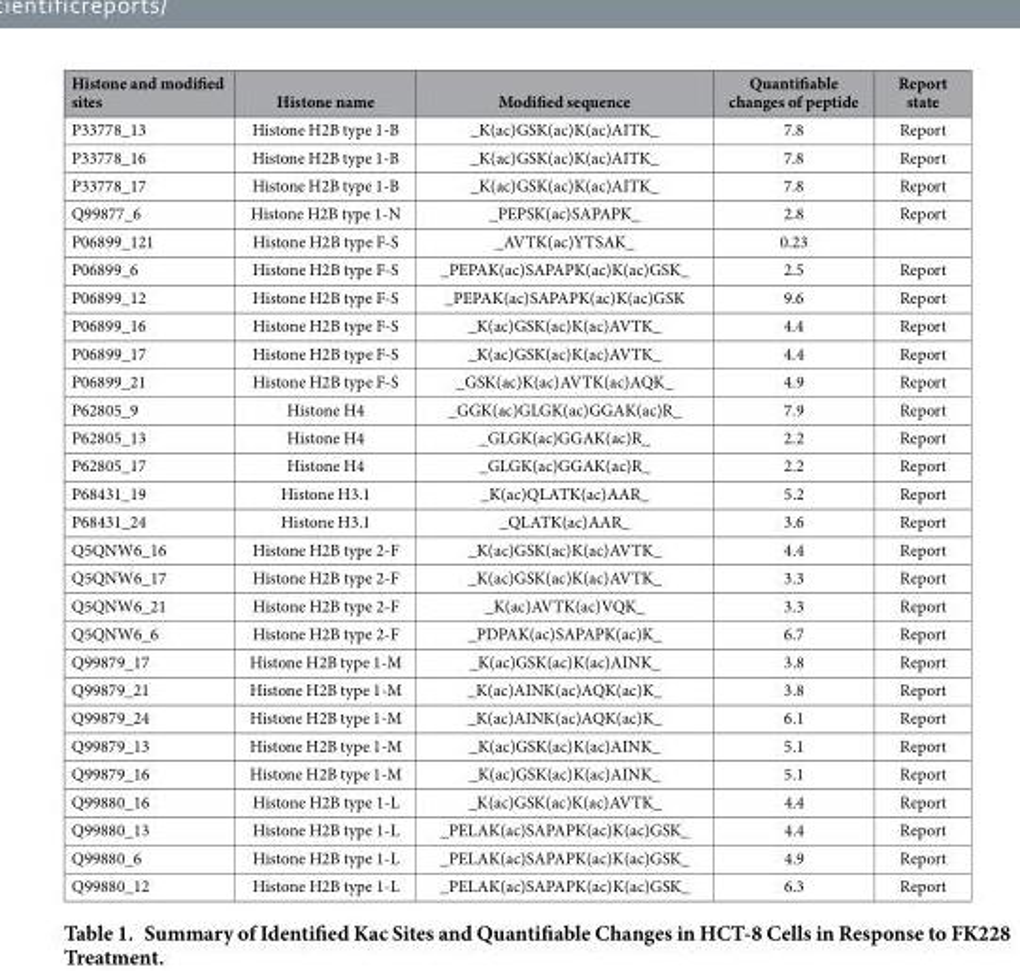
<table><thead><tr><td>Histone and modified sites</td><td>Histone name</td><td>Modified sequence</td><td>Quantifiable changes of peptide</td><td>Report state</td></tr></thead><tbody><tr><td>P33778_13</td><td>Histone H2B type 1-B</td><td>_K(ac)GSK(ac)K(ac)AITK_</td><td>7.8</td><td>Report</td></tr><tr><td>P33778_16</td><td>Histone H2B type 1-B</td><td>_K(ac)GSK(ac)K(ac)AITK_</td><td>7.8</td><td>Report</td></tr><tr><td>P33778_17</td><td>Histone H2B type 1-B</td><td>_K(ac)GSK(ac)K(ac)AITK_</td><td>7.8</td><td>Report</td></tr><tr><td>Q99877_6</td><td>Histone H2B type 1-N</td><td>_PEPSK(ac)SAPAPK_</td><td>2.8</td><td>Report</td></tr><tr><td>P06899_121</td><td>Histone H2B type F-S</td><td>_AVTK(ac)YTSAK_</td><td>0.23</td><td></td></tr><tr><td>P06899_6</td><td>Histone H2B type F-S</td><td>_PEPAK(ac)SAPAPK(ac)K(ac)GSK_</td><td>2.5</td><td>Report</td></tr><tr><td>P06899_12</td><td>Histone H2B type F-S</td><td>_PEPAK(ac)SAPAPK(ac)K(ac)GSK</td><td>9.6</td><td>Report</td></tr><tr><td>P06899_16</td><td>Histone H2B type F-S</td><td>_K(ac)GSK(ac)K(ac)AVTK_</td><td>4.4</td><td>Report</td></tr><tr><td>P06899_17</td><td>Histone H2B type F-S</td><td>_K(ac)GSK(ac)K(ac)AVTK_</td><td>4.4</td><td>Report</td></tr><tr><td>P06899_21</td><td>Histone H2B type F-S</td><td>_GSK(ac)K(ac)AVTK(ac)AQK_</td><td>4.9</td><td>Report</td></tr><tr><td>P62805_9</td><td>Histone H4</td><td>_GGK(ac)GLGK(ac)GGAK(ac)R_</td><td>7.9</td><td>Report</td></tr><tr><td>P62805_13</td><td>Histone H4</td><td>_GLGK(ac)GGAK(ac)R_</td><td>2.2</td><td>Report</td></tr><tr><td>P62805_17</td><td>Histone H4</td><td>_GLGK(ac)GGAK(ac)R_</td><td>2.2</td><td>Report</td></tr><tr><td>P68431_19</td><td>Histone H3.1</td><td>_K(ac)QLATK(ac)AAR_</td><td>5.2</td><td>Report</td></tr><tr><td>P68431_24</td><td>Histone H3.1</td><td>_QLATK(ac)AAR_</td><td>3.6</td><td>Report</td></tr><tr><td>Q5QNW6_16</td><td>Histone H2B type 2-F</td><td>_K(ac)GSK(ac)K(ac)AVTK_</td><td>4.4</td><td>Report</td></tr><tr><td>Q5QNW6_17</td><td>Histone H2B type 2-F</td><td>_K(ac)GSK(ac)K(ac)AVTK_</td><td>3.3</td><td>Report</td></tr><tr><td>Q5QNW6_21</td><td>Histone H2B type 2-F</td><td>_K(ac)AVTK(ac)VQK_</td><td>3.3</td><td>Report</td></tr><tr><td>Q5QNW6_6</td><td>Histone H2B type 2-F</td><td>_PDPAK(ac)SAPAPK(ac)K_</td><td>6.7</td><td>Report</td></tr><tr><td>Q99879_17</td><td>Histone H2B type 1-M</td><td>_K(ac)GSK(ac)K(ac)AINK_</td><td>3.8</td><td>Report</td></tr><tr><td>Q99879_21</td><td>Histone H2B type 1-M</td><td>_K(ac)AINK(ac)AQK(ac)K_</td><td>3.8</td><td>Report</td></tr><tr><td>Q99879_24</td><td>Histone H2B type 1-M</td><td>_K(ac)AINK(ac)AQK(ac)K_</td><td>6.1</td><td>Report</td></tr><tr><td>Q99879_13</td><td>Histone H2B type 1-M</td><td>_K(ac)GSK(ac)K(ac)AINK_</td><td>5.1</td><td>Report</td></tr><tr><td>Q99879_16</td><td>Histone H2B type 1-M</td><td>_K(ac)GSK(ac)K(ac)AINK_</td><td>5.1</td><td>Report</td></tr><tr><td>Q99880_16</td><td>Histone H2B type 1-L</td><td>_K(ac)GSK(ac)K(ac)AVTK_</td><td>4.4</td><td>Report</td></tr><tr><td>Q99880_13</td><td>Histone H2B type 1-L</td><td>_PELAK(ac)SAPAPK(ac)K(ac)GSK_</td><td>4.4</td><td>Report</td></tr><tr><td>Q99880_6</td><td>Histone H2B type 1-L</td><td>_PELAK(ac)SAPAPK(ac)K(ac)GSK_</td><td>4.9</td><td>Report</td></tr><tr><td>Q99880_12</td><td>Histone H2B type 1-L</td><td>_PELAK(ac)SAPAPK(ac)K(ac)GSK_</td><td>6.3</td><td>Report</td></tr></tbody></table>